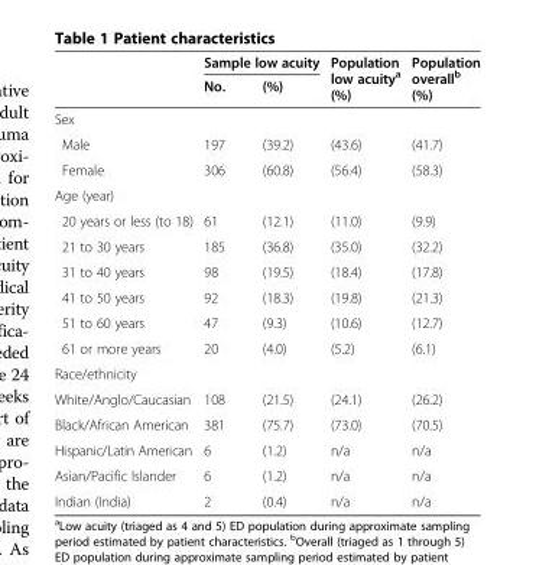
<table><thead><tr><td rowspan="2"></td><td colspan="2">Sample low acuity</td><td rowspan="2">Population low acuity<sup>a</sup> (%)</td><td rowspan="2">Population overall<sup>b</sup> (%)</td></tr><tr><td>No.</td><td>(%)</td></tr></thead><tbody><tr><td colspan="5">Sex</td></tr><tr><td>Male</td><td>197</td><td>(39.2)</td><td>(43.6)</td><td>(41.7)</td></tr><tr><td>Female</td><td>306</td><td>(60.8)</td><td>(56.4)</td><td>(58.3)</td></tr><tr><td colspan="5">Age (year)</td></tr><tr><td>20 years or less (to 18)</td><td>61</td><td>(12.1)</td><td>(11.0)</td><td>(9.9)</td></tr><tr><td>21 to 30 years</td><td>185</td><td>(36.8)</td><td>(35.0)</td><td>(32.2)</td></tr><tr><td>31 to 40 years</td><td>98</td><td>(19.5)</td><td>(18.4)</td><td>(17.8)</td></tr><tr><td>41 to 50 years</td><td>92</td><td>(18.3)</td><td>(19.8)</td><td>(21.3)</td></tr><tr><td>51 to 60 years</td><td>47</td><td>(9.3)</td><td>(10.6)</td><td>(12.7)</td></tr><tr><td>61 or more years</td><td>20</td><td>(4.0)</td><td>(5.2)</td><td>(6.1)</td></tr><tr><td colspan="5">Race/ethnicity</td></tr><tr><td>White/Anglo/Caucasian</td><td>108</td><td>(21.5)</td><td>(24.1)</td><td>(26.2)</td></tr><tr><td>Black/African American</td><td>381</td><td>(75.7)</td><td>(73.0)</td><td>(70.5)</td></tr><tr><td>Hispanic/Latin American</td><td>6</td><td>(1.2)</td><td>n/a</td><td>n/a</td></tr><tr><td>Asian/Pacific Islander</td><td>6</td><td>(1.2)</td><td>n/a</td><td>n/a</td></tr><tr><td>Indian (India)</td><td>2</td><td>(0.4)</td><td>n/a</td><td>n/a</td></tr></tbody></table>